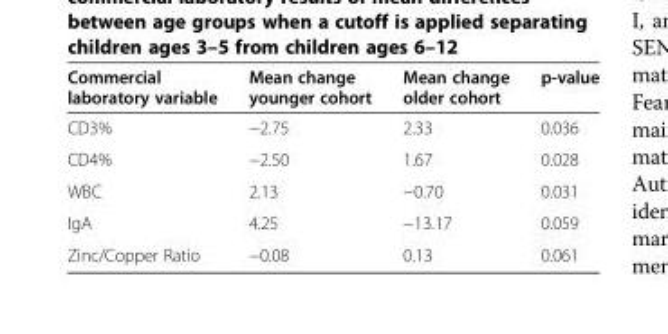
<table><thead><tr><td>Commercial laboratory variable</td><td>Mean change younger cohort</td><td>Mean change older cohort</td><td>p-value</td></tr></thead><tbody><tr><td>CD3%</td><td>−2.75</td><td>2.33</td><td>0.036</td></tr><tr><td>CD4%</td><td>−2.50</td><td>1.67</td><td>0.028</td></tr><tr><td>WBC</td><td>2.13</td><td>−0.70</td><td>0.031</td></tr><tr><td>IgA</td><td>4.25</td><td>−13.17</td><td>0.059</td></tr><tr><td>Zinc/Copper Ratio</td><td>−0.08</td><td>0.13</td><td>0.061</td></tr></tbody></table>